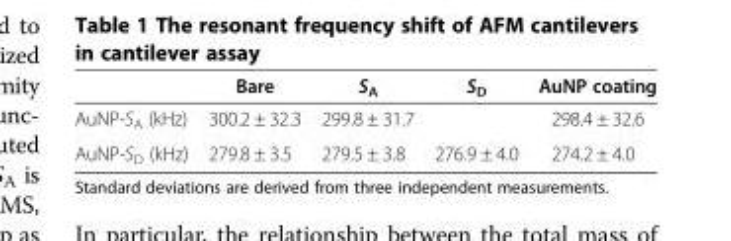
<table><thead><tr><td></td><td>Bare</td><td>S<sub>A</sub></td><td>S<sub>D</sub></td><td>AuNP coating</td></tr></thead><tbody><tr><td>AuNP-S<sub>A</sub> (kHz)</td><td>300.2 ± 32.3</td><td>299.8 ± 31.7</td><td></td><td>298.4 ± 32.6</td></tr><tr><td>AuNP-S<sub>D</sub> (kHz)</td><td>279.8 ± 3.5</td><td>279.5 ± 3.8</td><td>276.9 ± 4.0</td><td>274.2 ± 4.0</td></tr></tbody></table>